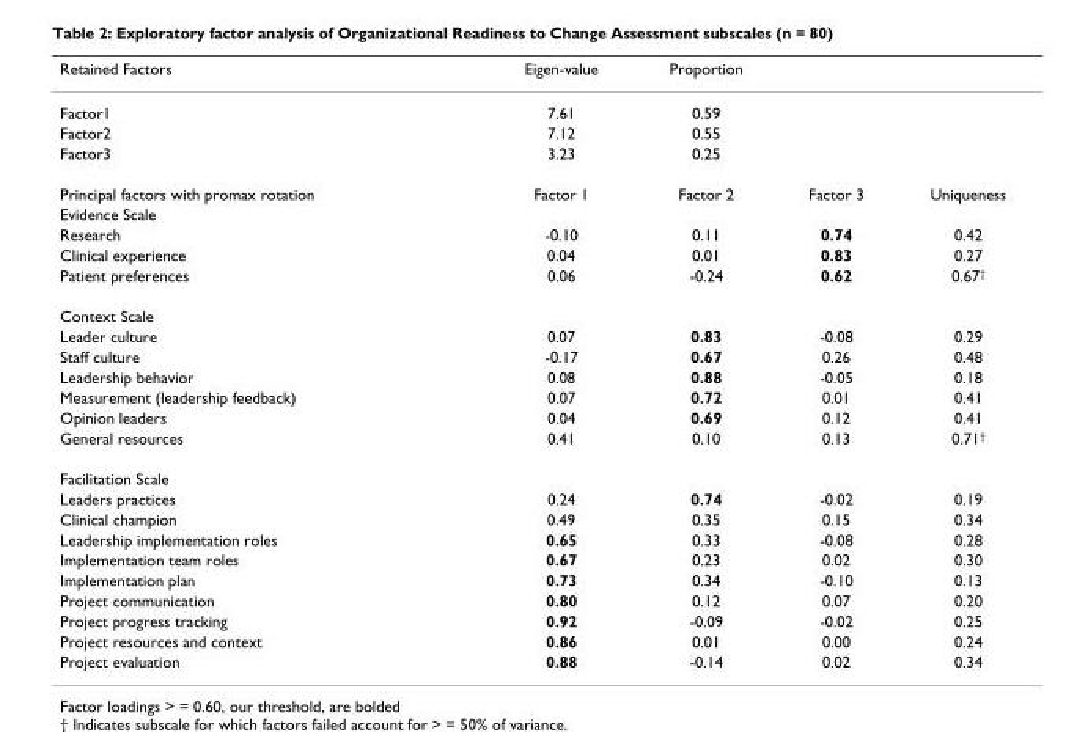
<table><thead><tr><td>Retained Factors</td><td>Eigen-value</td><td>Proportion</td><td></td><td></td></tr></thead><tbody><tr><td>Factor1</td><td>7.61</td><td>0.59</td><td></td><td></td></tr><tr><td>Factor2</td><td>7.12</td><td>0.55</td><td></td><td></td></tr><tr><td>Factor3</td><td>3.23</td><td>0.25</td><td></td><td></td></tr><tr><td>Principal factors with promax rotation</td><td>Factor 1</td><td>Factor 2</td><td>Factor 3</td><td>Uniqueness</td></tr><tr><td colspan="5">Evidence Scale</td></tr><tr><td>Research</td><td>-0.10</td><td>0.11</td><td>0.74</td><td>0.42</td></tr><tr><td>Clinical experience</td><td>0.04</td><td>0.01</td><td>0.83</td><td>0.27</td></tr><tr><td>Patient preferences</td><td>0.06</td><td>-0.24</td><td>0.62</td><td>0.67<sup>†</sup></td></tr><tr><td colspan="5">Context Scale</td></tr><tr><td>Leader culture</td><td>0.07</td><td>0.83</td><td>-0.08</td><td>0.29</td></tr><tr><td>Staff culture</td><td>-0.17</td><td>0.67</td><td>0.26</td><td>0.48</td></tr><tr><td>Leadership behavior</td><td>0.08</td><td>0.88</td><td>-0.05</td><td>0.18</td></tr><tr><td>Measurement (leadership feedback)</td><td>0.07</td><td>0.72</td><td>0.01</td><td>0.41</td></tr><tr><td>Opinion leaders</td><td>0.04</td><td>0.69</td><td>0.12</td><td>0.41</td></tr><tr><td>General resources</td><td>0.41</td><td>0.10</td><td>0.13</td><td>0.71<sup>†</sup></td></tr><tr><td colspan="5">Facilitation Scale</td></tr><tr><td>Leaders practices</td><td>0.24</td><td>0.74</td><td>-0.02</td><td>0.19</td></tr><tr><td>Clinical champion</td><td>0.49</td><td>0.35</td><td>0.15</td><td>0.34</td></tr><tr><td>Leadership implementation roles</td><td>0.65</td><td>0.33</td><td>-0.08</td><td>0.28</td></tr><tr><td>Implementation team roles</td><td>0.67</td><td>0.23</td><td>0.02</td><td>0.30</td></tr><tr><td>Implementation plan</td><td>0.73</td><td>0.34</td><td>-0.10</td><td>0.13</td></tr><tr><td>Project communication</td><td>0.80</td><td>0.12</td><td>0.07</td><td>0.20</td></tr><tr><td>Project progress tracking</td><td>0.92</td><td>-0.09</td><td>-0.02</td><td>0.25</td></tr><tr><td>Project resources and context</td><td>0.86</td><td>0.01</td><td>0.00</td><td>0.24</td></tr><tr><td>Project evaluation</td><td>0.88</td><td>-0.14</td><td>0.02</td><td>0.34</td></tr></tbody></table>